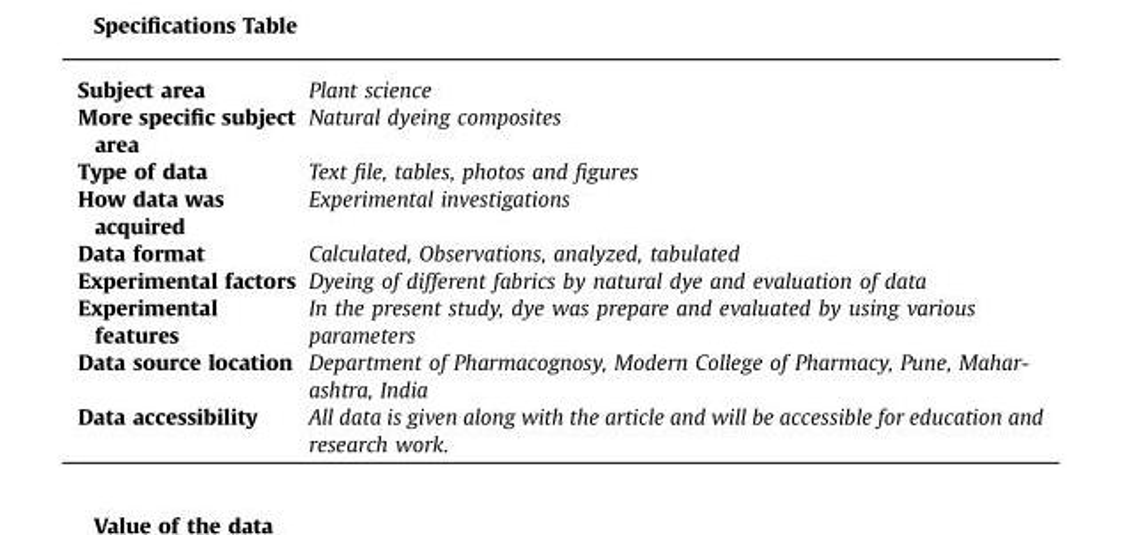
<table><tbody><tr><td>Subject area</td><td>Plant science</td></tr><tr><td>More specific subject area</td><td>Natural dyeing composites</td></tr><tr><td>Type of data</td><td>Text file, tables, photos and figures</td></tr><tr><td>How data was acquired</td><td>Experimental investigations</td></tr><tr><td>Data format</td><td>Calculated, Observations, analyzed, tabulated</td></tr><tr><td>Experimental factors</td><td>Dyeing of different fabrics by natural dye and evaluation of data</td></tr><tr><td>Experimental features</td><td>In the present study, dye was prepare and evaluated by using various parameters</td></tr><tr><td>Data source location</td><td>Department of Pharmacognosy, Modern College of Pharmacy, Pune, Mahar- ashtra, India</td></tr><tr><td>Data accessibility</td><td>All data is given along with the article and will be accessible for education and research work.</td></tr></tbody></table>